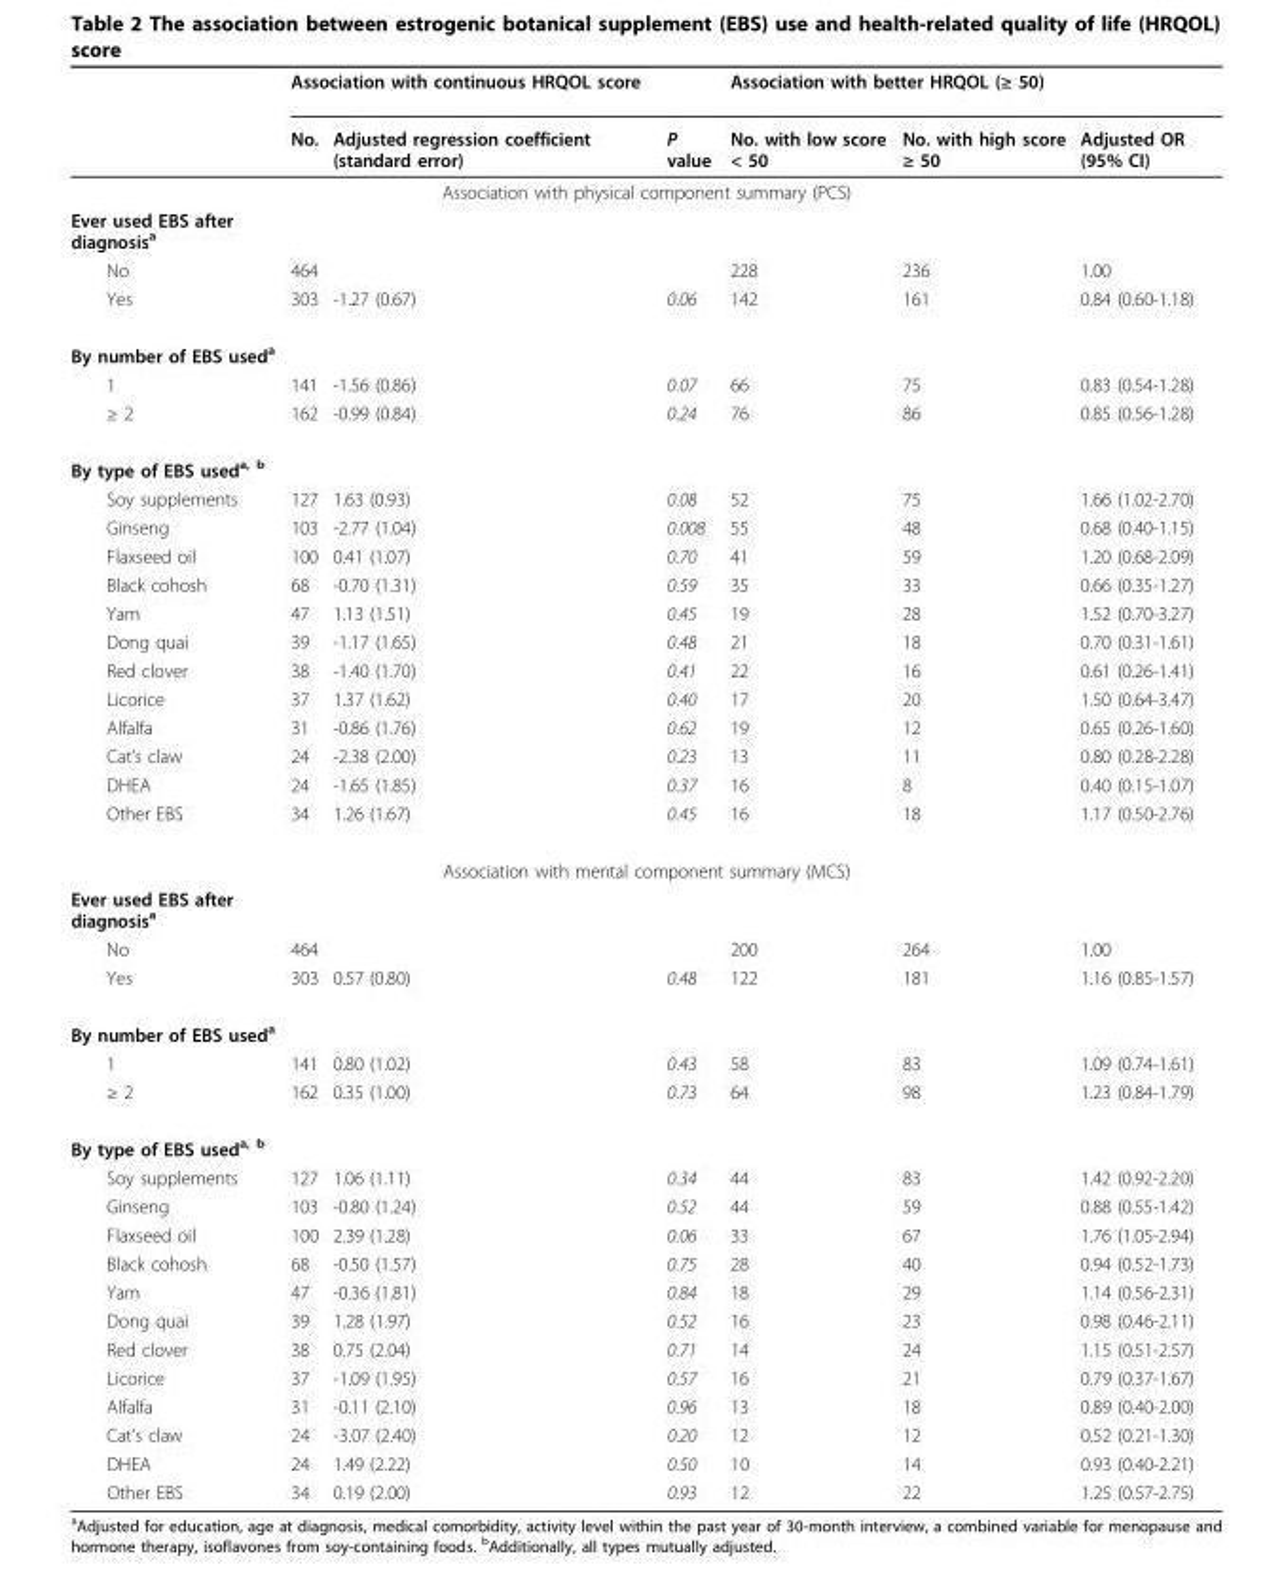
<table><thead><tr><td rowspan="2"></td><td colspan="3">Association with continuous HRQOL score</td><td colspan="3">Association with better HRQOL (≥ 50)</td></tr><tr><td>No.</td><td>Adjusted regression coefficient (standard error)</td><td>P value</td><td>No. with low score &lt; 50</td><td>No. with high score ≥ 50</td><td>Adjusted OR (95% CI)</td></tr></thead><tbody><tr><td colspan="7">Association with physical component summary (PCS)</td></tr><tr><td colspan="7">Ever used EBS after diagnosis<sup>a</sup></td></tr><tr><td>No</td><td>464</td><td></td><td></td><td>228</td><td>236</td><td>1.00</td></tr><tr><td>Yes</td><td>303</td><td>-1.27 (0.67)</td><td>0.06</td><td>142</td><td>161</td><td>0.84 (0.60-1.18)</td></tr><tr><td colspan="7">By number of EBS used<sup>a</sup></td></tr><tr><td>1</td><td>141</td><td>-1.56 (0.86)</td><td>0.07</td><td>66</td><td>75</td><td>0.83 (0.54-1.28)</td></tr><tr><td>≥ 2</td><td>162</td><td>-0.99 (0.84)</td><td>0.24</td><td>76</td><td>86</td><td>0.85 (0.56-1.28)</td></tr><tr><td colspan="7">By type of EBS used<sup>a, b</sup></td></tr><tr><td>Soy supplements</td><td>127</td><td>1.63 (0.93)</td><td>0.08</td><td>52</td><td>75</td><td>1.66 (1.02-2.70)</td></tr><tr><td>Ginseng</td><td>103</td><td>-2.77 (1.04)</td><td>0.008</td><td>55</td><td>48</td><td>0.68 (0.40-1.15)</td></tr><tr><td>Flaxseed oil</td><td>100</td><td>0.41 (1.07)</td><td>0.70</td><td>41</td><td>59</td><td>1.20 (0.68-2.09)</td></tr><tr><td>Black cohosh</td><td>68</td><td>-0.70 (1.31)</td><td>0.59</td><td>35</td><td>33</td><td>0.66 (0.35-1.27)</td></tr><tr><td>Yam</td><td>47</td><td>1.13 (1.51)</td><td>0.45</td><td>19</td><td>28</td><td>1.52 (0.70-3.27)</td></tr><tr><td>Dong quai</td><td>39</td><td>-1.17 (1.65)</td><td>0.48</td><td>21</td><td>18</td><td>0.70 (0.31-1.61)</td></tr><tr><td>Red clover</td><td>38</td><td>-1.40 (1.70)</td><td>0.41</td><td>22</td><td>16</td><td>0.61 (0.26-1.41)</td></tr><tr><td>Licorice</td><td>37</td><td>1.37 (1.62)</td><td>0.40</td><td>17</td><td>20</td><td>1.50 (0.64-3.47)</td></tr><tr><td>Alfalfa</td><td>31</td><td>-0.86 (1.76)</td><td>0.62</td><td>19</td><td>12</td><td>0.65 (0.26-1.60)</td></tr><tr><td>Cat’s claw</td><td>24</td><td>-2.38 (2.00)</td><td>0.23</td><td>13</td><td>11</td><td>0.80 (0.28-2.28)</td></tr><tr><td>DHEA</td><td>24</td><td>-1.65 (1.85)</td><td>0.37</td><td>16</td><td>8</td><td>0.40 (0.15-1.07)</td></tr><tr><td>Other EBS</td><td>34</td><td>1.26 (1.67)</td><td>0.45</td><td>16</td><td>18</td><td>1.17 (0.50-2.76)</td></tr><tr><td colspan="7">Association with mental component summary (MCS)</td></tr><tr><td colspan="7">Ever used EBS after diagnosis<sup>a</sup></td></tr><tr><td>No</td><td>464</td><td></td><td></td><td>200</td><td>264</td><td>1.00</td></tr><tr><td>Yes</td><td>303</td><td>0.57 (0.80)</td><td>0.48</td><td>122</td><td>181</td><td>1.16 (0.85-1.57)</td></tr><tr><td colspan="7">By number of EBS used<sup>a</sup></td></tr><tr><td>1</td><td>141</td><td>0.80 (1.02)</td><td>0.43</td><td>58</td><td>83</td><td>1.09 (0.74-1.61)</td></tr><tr><td>≥ 2</td><td>162</td><td>0.35 (1.00)</td><td>0.73</td><td>64</td><td>98</td><td>1.23 (0.84-1.79)</td></tr><tr><td colspan="7">By type of EBS used<sup>a, b</sup></td></tr><tr><td>Soy supplements</td><td>127</td><td>1.06 (1.11)</td><td>0.34</td><td>44</td><td>83</td><td>1.42 (0.92-2.20)</td></tr><tr><td>Ginseng</td><td>103</td><td>-0.80 (1.24)</td><td>0.52</td><td>44</td><td>59</td><td>0.88 (0.55-1.42)</td></tr><tr><td>Flaxseed oil</td><td>100</td><td>2.39 (1.28)</td><td>0.06</td><td>33</td><td>67</td><td>1.76 (1.05-2.94)</td></tr><tr><td>Black cohosh</td><td>68</td><td>-0.50 (1.57)</td><td>0.75</td><td>28</td><td>40</td><td>0.94 (0.52-1.73)</td></tr><tr><td>Yam</td><td>47</td><td>-0.36 (1.81)</td><td>0.84</td><td>18</td><td>29</td><td>1.14 (0.56-2.31)</td></tr><tr><td>Dong quai</td><td>39</td><td>1.28 (1.97)</td><td>0.52</td><td>16</td><td>23</td><td>0.98 (0.46-2.11)</td></tr><tr><td>Red clover</td><td>38</td><td>0.75 (2.04)</td><td>0.71</td><td>14</td><td>24</td><td>1.15 (0.51-2.57)</td></tr><tr><td>Licorice</td><td>37</td><td>-1.09 (1.95)</td><td>0.57</td><td>16</td><td>21</td><td>0.79 (0.37-1.67)</td></tr><tr><td>Alfalfa</td><td>31</td><td>-0.11 (2.10)</td><td>0.96</td><td>13</td><td>18</td><td>0.89 (0.40-2.00)</td></tr><tr><td>Cat’s claw</td><td>24</td><td>-3.07 (2.40)</td><td>0.20</td><td>12</td><td>12</td><td>0.52 (0.21-1.30)</td></tr><tr><td>DHEA</td><td>24</td><td>1.49 (2.22)</td><td>0.50</td><td>10</td><td>14</td><td>0.93 (0.40-2.21)</td></tr><tr><td>Other EBS</td><td>34</td><td>0.19 (2.00)</td><td>0.93</td><td>12</td><td>22</td><td>1.25 (0.57-2.75)</td></tr></tbody></table>